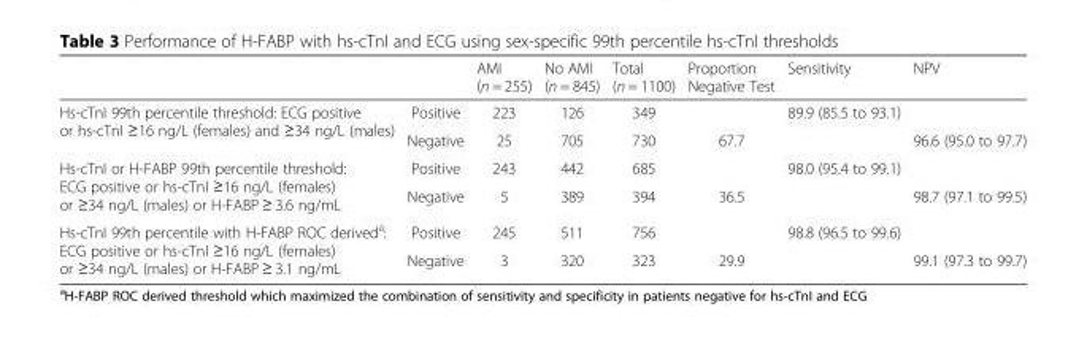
<table><thead><tr><td></td><td></td><td>AMI (n = 255)</td><td>No AMI (n = 845)</td><td>Total (n = 1100)</td><td>Proportion Negative Test</td><td>Sensitivity</td><td>NPV</td></tr></thead><tbody><tr><td rowspan="2">Hs-cTnI 99th percentile threshold: ECG positive or hs-cTnI ≥16 ng/L (females) and ≥34 ng/L (males)</td><td>Positive</td><td>223</td><td>126</td><td>349</td><td></td><td>89.9 (85.5 to 93.1)</td><td></td></tr><tr><td>Negative</td><td>25</td><td>705</td><td>730</td><td>67.7</td><td></td><td>96.6 (95.0 to 97.7)</td></tr><tr><td rowspan="2">Hs-cTnI or H-FABP 99th percentile threshold: ECG positive or hs-cTnI ≥16 ng/L (females) or ≥34 ng/L (males) or H-FABP ≥ 3.6 ng/mL</td><td>Positive</td><td>243</td><td>442</td><td>685</td><td></td><td>98.0 (95.4 to 99.1)</td><td></td></tr><tr><td>Negative</td><td>5</td><td>389</td><td>394</td><td>36.5</td><td></td><td>98.7 (97.1 to 99.5)</td></tr><tr><td rowspan="2">Hs-cTnI 99th percentile with H-FABP ROC derived<sup>a</sup>: ECG positive or hs-cTnI ≥16 ng/L (females) or ≥34 ng/L (males) or H-FABP ≥ 3.1 ng/mL</td><td>Positive</td><td>245</td><td>511</td><td>756</td><td></td><td>98.8 (96.5 to 99.6)</td><td></td></tr><tr><td>Negative</td><td>3</td><td>320</td><td>323</td><td>29.9</td><td></td><td>99.1 (97.3 to 99.7)</td></tr></tbody></table>